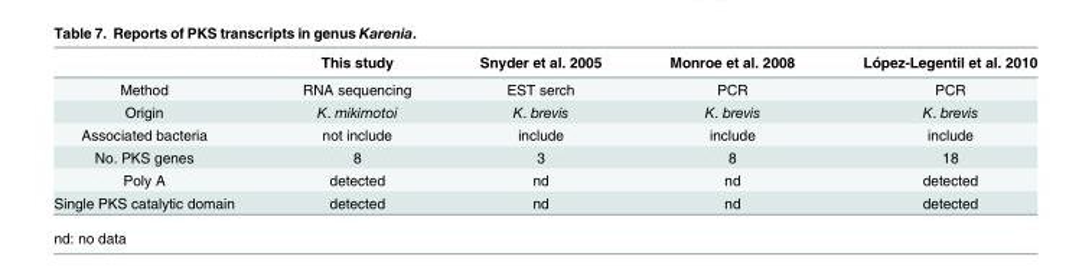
<table><thead><tr><td></td><td>This study</td><td>Snyder et al. 2005</td><td>Monroe et al. 2008</td><td>López-Legentil et al. 2010</td></tr></thead><tbody><tr><td>Method</td><td>RNA sequencing</td><td>EST serch</td><td>PCR</td><td>PCR</td></tr><tr><td>Origin</td><td>K. mikimotoi</td><td>K. brevis</td><td>K. brevis</td><td>K. brevis</td></tr><tr><td>Associated bacteria</td><td>not include</td><td>include</td><td>include</td><td>include</td></tr><tr><td>No. PKS genes</td><td>8</td><td>3</td><td>8</td><td>18</td></tr><tr><td>Poly A</td><td>detected</td><td>nd</td><td>nd</td><td>detected</td></tr><tr><td>Single PKS catalytic domain</td><td>detected</td><td>nd</td><td>nd</td><td>detected</td></tr></tbody></table>